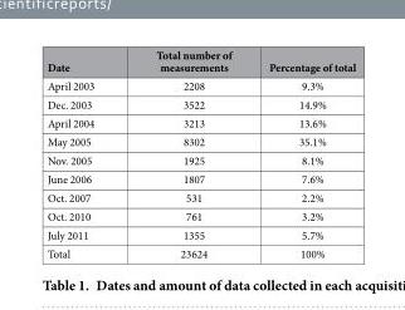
<table><thead><tr><td>Date</td><td>Total number of measurements</td><td>Percentage of total</td></tr></thead><tbody><tr><td>April 2003</td><td>2208</td><td>9.3%</td></tr><tr><td>Dec. 2003</td><td>3522</td><td>14.9%</td></tr><tr><td>April 2004</td><td>3213</td><td>13.6%</td></tr><tr><td>May 2005</td><td>8302</td><td>35.1%</td></tr><tr><td>Nov. 2005</td><td>1925</td><td>8.1%</td></tr><tr><td>June 2006</td><td>1807</td><td>7.6%</td></tr><tr><td>Oct. 2007</td><td>531</td><td>2.2%</td></tr><tr><td>Oct. 2010</td><td>761</td><td>3.2%</td></tr><tr><td>July 2011</td><td>1355</td><td>5.7%</td></tr><tr><td>Total</td><td>23624</td><td>100%</td></tr></tbody></table>